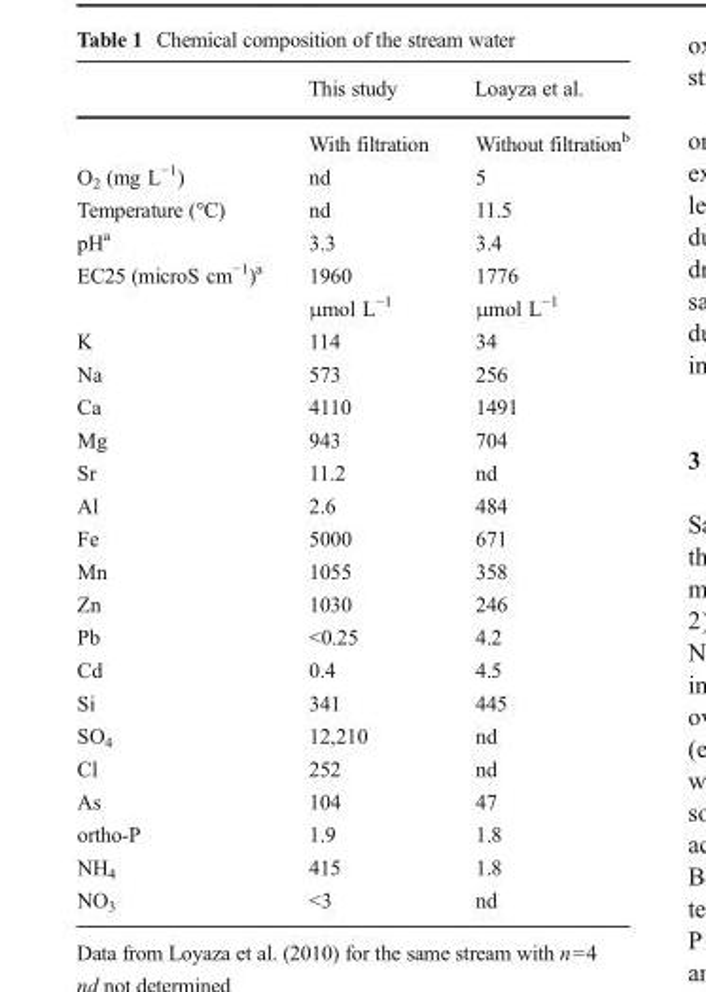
<table><thead><tr><td></td><td>This study</td><td>Loayza et al.</td></tr></thead><tbody><tr><td></td><td>With filtration</td><td>Without filtration<sup>b</sup></td></tr><tr><td>O<sub>2</sub> (mg L<sup>−1</sup>)</td><td>nd</td><td>5</td></tr><tr><td>Temperature (°C)</td><td>nd</td><td>11.5</td></tr><tr><td>pH<sup>a</sup></td><td>3.3</td><td>3.4</td></tr><tr><td rowspan="2">EC25 (microS cm<sup>−1</sup>)<sup>a</sup></td><td>1960</td><td>1776</td></tr><tr><td>μmol L<sup>−1</sup></td><td>μmol L<sup>−1</sup></td></tr><tr><td>K</td><td>114</td><td>34</td></tr><tr><td>Na</td><td>573</td><td>256</td></tr><tr><td>Ca</td><td>4110</td><td>1491</td></tr><tr><td>Mg</td><td>943</td><td>704</td></tr><tr><td>Sr</td><td>11.2</td><td>nd</td></tr><tr><td>Al</td><td>2.6</td><td>484</td></tr><tr><td>Fe</td><td>5000</td><td>671</td></tr><tr><td>Mn</td><td>1055</td><td>358</td></tr><tr><td>Zn</td><td>1030</td><td>246</td></tr><tr><td>Pb</td><td>&lt;0.25</td><td>4.2</td></tr><tr><td>Cd</td><td>0.4</td><td>4.5</td></tr><tr><td>Si</td><td>341</td><td>445</td></tr><tr><td>SO<sub>4</sub></td><td>12,210</td><td>nd</td></tr><tr><td>Cl</td><td>252</td><td>nd</td></tr><tr><td>As</td><td>104</td><td>47</td></tr><tr><td>ortho-P</td><td>1.9</td><td>1.8</td></tr><tr><td>NH<sub>4</sub></td><td>415</td><td>1.8</td></tr><tr><td>NO<sub>3</sub></td><td>&lt;3</td><td>nd</td></tr></tbody></table>